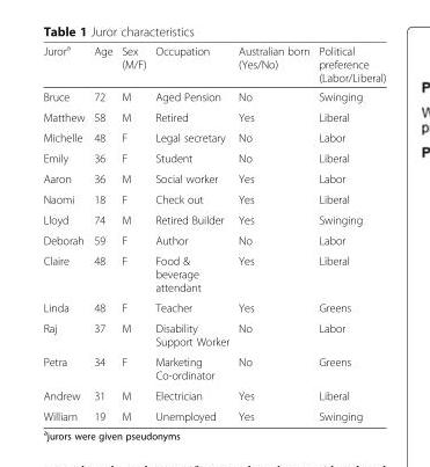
<table><thead><tr><td>Juror<sup>a</sup></td><td>Age</td><td>Sex (M/F)</td><td>Occupation</td><td>Australian born (Yes/No)</td><td>Political preference (Labor/Liberal)</td></tr></thead><tbody><tr><td>Bruce</td><td>72</td><td>M</td><td>Aged Pension</td><td>No</td><td>Swinging</td></tr><tr><td>Matthew</td><td>58</td><td>M</td><td>Retired</td><td>Yes</td><td>Liberal</td></tr><tr><td>Michelle</td><td>48</td><td>F</td><td>Legal secretary</td><td>No</td><td>Labor</td></tr><tr><td>Emily</td><td>36</td><td>F</td><td>Student</td><td>No</td><td>Liberal</td></tr><tr><td>Aaron</td><td>36</td><td>M</td><td>Social worker</td><td>Yes</td><td>Labor</td></tr><tr><td>Naomi</td><td>18</td><td>F</td><td>Check out</td><td>Yes</td><td>Liberal</td></tr><tr><td>Lloyd</td><td>74</td><td>M</td><td>Retired Builder</td><td>Yes</td><td>Swinging</td></tr><tr><td>Deborah</td><td>59</td><td>F</td><td>Author</td><td>No</td><td>Labor</td></tr><tr><td>Claire</td><td>48</td><td>F</td><td>Food &amp; beverage attendant</td><td>Yes</td><td>Liberal</td></tr><tr><td>Linda</td><td>48</td><td>F</td><td>Teacher</td><td>Yes</td><td>Greens</td></tr><tr><td>Raj</td><td>37</td><td>M</td><td>Disability Support Worker</td><td>No</td><td>Labor</td></tr><tr><td>Petra</td><td>34</td><td>F</td><td>Marketing Co-ordinator</td><td>No</td><td>Greens</td></tr><tr><td>Andrew</td><td>31</td><td>M</td><td>Electrician</td><td>Yes</td><td>Liberal</td></tr><tr><td>William</td><td>19</td><td>M</td><td>Unemployed</td><td>Yes</td><td>Swinging</td></tr></tbody></table>